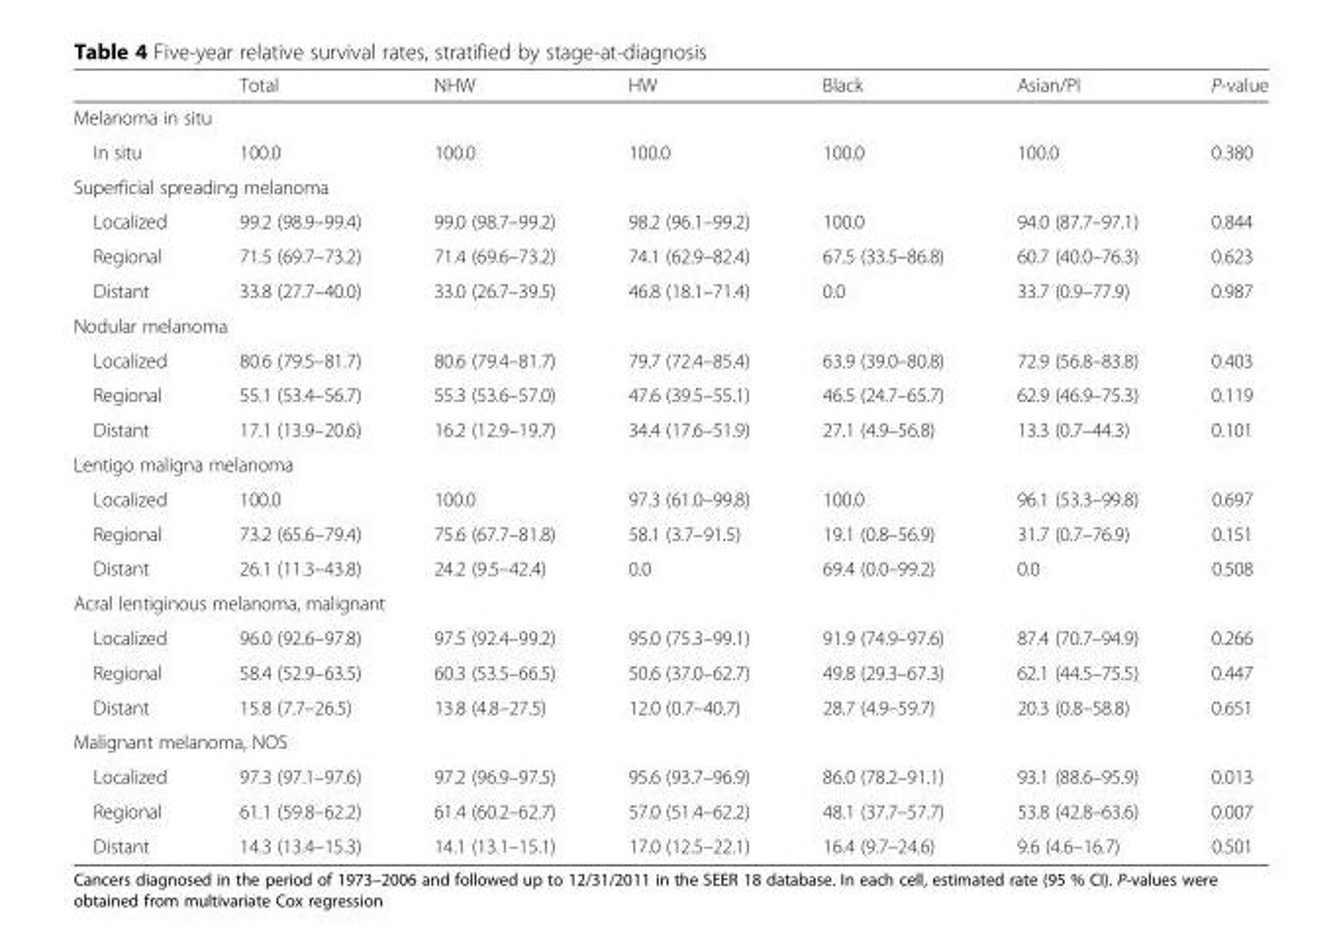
<table><thead><tr><td></td><td>Total</td><td>NHW</td><td>HW</td><td>Black</td><td>Asian/PI</td><td>P-value</td></tr></thead><tbody><tr><td colspan="7">Melanoma in situ</td></tr><tr><td>In situ</td><td>100.0</td><td>100.0</td><td>100.0</td><td>100.0</td><td>100.0</td><td>0.380</td></tr><tr><td colspan="7">Superficial spreading melanoma</td></tr><tr><td>Localized</td><td>99.2 (98.9–99.4)</td><td>99.0 (98.7–99.2)</td><td>98.2 (96.1–99.2)</td><td>100.0</td><td>94.0 (87.7–97.1)</td><td>0.844</td></tr><tr><td>Regional</td><td>71.5 (69.7–73.2)</td><td>71.4 (69.6–73.2)</td><td>74.1 (62.9–82.4)</td><td>67.5 (33.5–86.8)</td><td>60.7 (40.0–76.3)</td><td>0.623</td></tr><tr><td>Distant</td><td>33.8 (27.7–40.0)</td><td>33.0 (26.7–39.5)</td><td>46.8 (18.1–71.4)</td><td>0.0</td><td>33.7 (0.9–77.9)</td><td>0.987</td></tr><tr><td colspan="7">Nodular melanoma</td></tr><tr><td>Localized</td><td>80.6 (79.5–81.7)</td><td>80.6 (79.4–81.7)</td><td>79.7 (72.4–85.4)</td><td>63.9 (39.0–80.8)</td><td>72.9 (56.8–83.8)</td><td>0.403</td></tr><tr><td>Regional</td><td>55.1 (53.4–56.7)</td><td>55.3 (53.6–57.0)</td><td>47.6 (39.5–55.1)</td><td>46.5 (24.7–65.7)</td><td>62.9 (46.9–75.3)</td><td>0.119</td></tr><tr><td>Distant</td><td>17.1 (13.9–20.6)</td><td>16.2 (12.9–19.7)</td><td>34.4 (17.6–51.9)</td><td>27.1 (4.9–56.8)</td><td>13.3 (0.7–44.3)</td><td>0.101</td></tr><tr><td colspan="7">Lentigo maligna melanoma</td></tr><tr><td>Localized</td><td>100.0</td><td>100.0</td><td>97.3 (61.0–99.8)</td><td>100.0</td><td>96.1 (53.3–99.8)</td><td>0.697</td></tr><tr><td>Regional</td><td>73.2 (65.6–79.4)</td><td>75.6 (67.7–81.8)</td><td>58.1 (3.7–91.5)</td><td>19.1 (0.8–56.9)</td><td>31.7 (0.7–76.9)</td><td>0.151</td></tr><tr><td>Distant</td><td>26.1 (11.3–43.8)</td><td>24.2 (9.5–42.4)</td><td>0.0</td><td>69.4 (0.0–99.2)</td><td>0.0</td><td>0.508</td></tr><tr><td colspan="7">Acral lentiginous melanoma, malignant</td></tr><tr><td>Localized</td><td>96.0 (92.6–97.8)</td><td>97.5 (92.4–99.2)</td><td>95.0 (75.3–99.1)</td><td>91.9 (74.9–97.6)</td><td>87.4 (70.7–94.9)</td><td>0.266</td></tr><tr><td>Regional</td><td>58.4 (52.9–63.5)</td><td>60.3 (53.5–66.5)</td><td>50.6 (37.0–62.7)</td><td>49.8 (29.3–67.3)</td><td>62.1 (44.5–75.5)</td><td>0.447</td></tr><tr><td>Distant</td><td>15.8 (7.7–26.5)</td><td>13.8 (4.8–27.5)</td><td>12.0 (0.7–40.7)</td><td>28.7 (4.9–59.7)</td><td>20.3 (0.8–58.8)</td><td>0.651</td></tr><tr><td colspan="7">Malignant melanoma, NOS</td></tr><tr><td>Localized</td><td>97.3 (97.1–97.6)</td><td>97.2 (96.9–97.5)</td><td>95.6 (93.7–96.9)</td><td>86.0 (78.2–91.1)</td><td>93.1 (88.6–95.9)</td><td>0.013</td></tr><tr><td>Regional</td><td>61.1 (59.8–62.2)</td><td>61.4 (60.2–62.7)</td><td>57.0 (51.4–62.2)</td><td>48.1 (37.7–57.7)</td><td>53.8 (42.8–63.6)</td><td>0.007</td></tr><tr><td>Distant</td><td>14.3 (13.4–15.3)</td><td>14.1 (13.1–15.1)</td><td>17.0 (12.5–22.1)</td><td>16.4 (9.7–24.6)</td><td>9.6 (4.6–16.7)</td><td>0.501</td></tr></tbody></table>